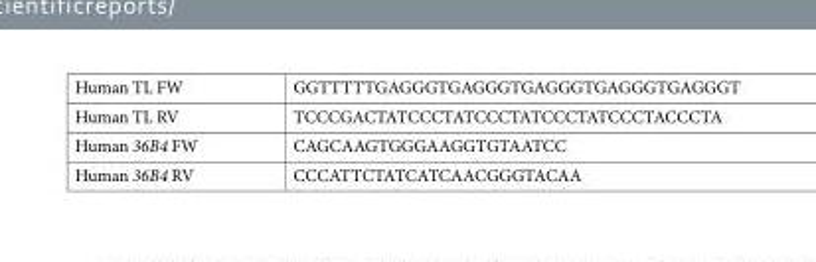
<table><tbody><tr><td>Human TL FW</td><td>GGTTTTTGAGGGTGAGGGTGAGGGTGAGGGTGAGGGT</td></tr><tr><td>Human TL RV</td><td>TCCCGACTATCCCTATCCCTATCCCTATCCCTACCCTA</td></tr><tr><td>Human 36B4 FW</td><td>CAGCAAGTGGGAAGGTGTAATCC</td></tr><tr><td>Human 36B4 RV</td><td>CCCATTCTATCATCAACGGGTACAA</td></tr></tbody></table>